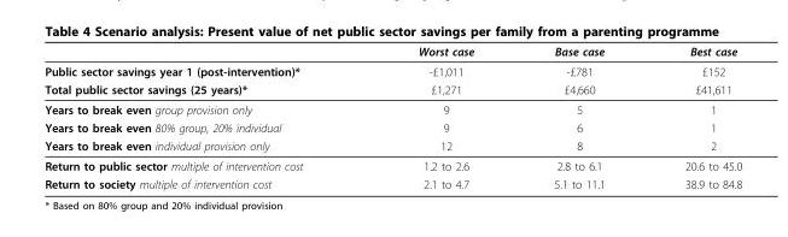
<table><thead><tr><td></td><td>Worst case</td><td>Base case</td><td>Best case</td></tr></thead><tbody><tr><td>Public sector savings year 1 (post-intervention)*</td><td>-£1,011</td><td>-£781</td><td>£152</td></tr><tr><td>Total public sector savings (25 years)*</td><td>£1,271</td><td>£4,660</td><td>£41,611</td></tr><tr><td>Years to break even group provision only</td><td>9</td><td>5</td><td>1</td></tr><tr><td>Years to break even 80% group, 20% individual</td><td>9</td><td>6</td><td>1</td></tr><tr><td>Years to break even individual provision only</td><td>12</td><td>8</td><td>2</td></tr><tr><td>Return to public sector multiple of intervention cost</td><td>1.2 to 2.6</td><td>2.8 to 6.1</td><td>20.6 to 45.0</td></tr><tr><td>Return to society multiple of intervention cost</td><td>2.1 to 4.7</td><td>5.1 to 11.1</td><td>38.9 to 84.8</td></tr></tbody></table>